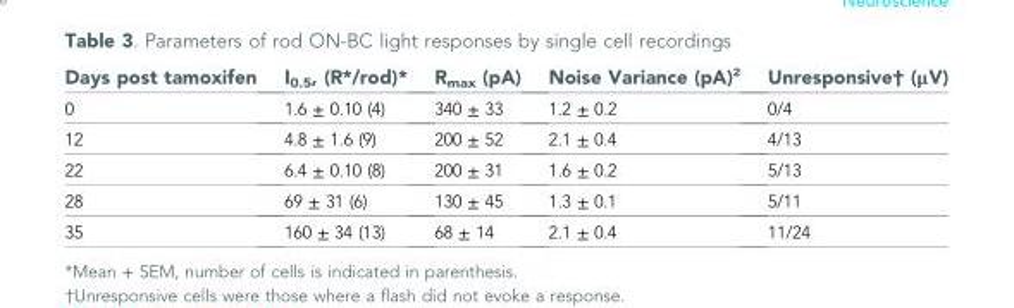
<table><thead><tr><td>Days post tamoxifen</td><td>I<sub>0.5</sub>, (R*/rod)*</td><td>R<sub>max</sub> (pA)</td><td>Noise Variance (pA)<sup>2</sup></td><td>Unresponsive† (μV)</td></tr></thead><tbody><tr><td>0</td><td>1.6 ± 0.10 (4)</td><td>340 ± 33</td><td>1.2 ± 0.2</td><td>0/4</td></tr><tr><td>12</td><td>4.8 ± 1.6 (9)</td><td>200 ± 52</td><td>2.1 ± 0.4</td><td>4/13</td></tr><tr><td>22</td><td>6.4 ± 0.10 (8)</td><td>200 ± 31</td><td>1.6 ± 0.2</td><td>5/13</td></tr><tr><td>28</td><td>69 ± 31 (6)</td><td>130 ± 45</td><td>1.3 ± 0.1</td><td>5/11</td></tr><tr><td>35</td><td>160 ± 34 (13)</td><td>68 ± 14</td><td>2.1 ± 0.4</td><td>11/24</td></tr></tbody></table>